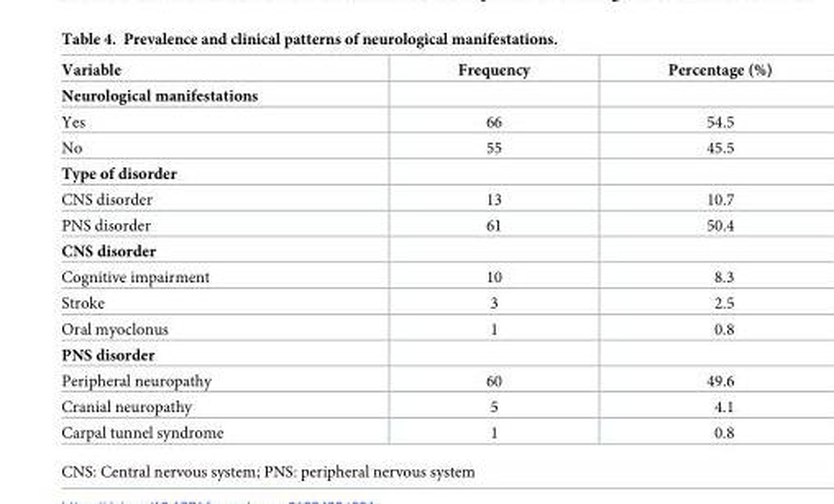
<table><thead><tr><td>Variable</td><td>Frequency</td><td>Percentage (%)</td></tr></thead><tbody><tr><td colspan="3">Neurological manifestations</td></tr><tr><td>Yes</td><td>66</td><td>54.5</td></tr><tr><td>No</td><td>55</td><td>45.5</td></tr><tr><td colspan="3">Type of disorder</td></tr><tr><td>CNS disorder</td><td>13</td><td>10.7</td></tr><tr><td>PNS disorder</td><td>61</td><td>50.4</td></tr><tr><td colspan="3">CNS disorder</td></tr><tr><td>Cognitive impairment</td><td>10</td><td>8.3</td></tr><tr><td>Stroke</td><td>3</td><td>2.5</td></tr><tr><td>Oral myoclonus</td><td>1</td><td>0.8</td></tr><tr><td colspan="3">PNS disorder</td></tr><tr><td>Peripheral neuropathy</td><td>60</td><td>49.6</td></tr><tr><td>Cranial neuropathy</td><td>5</td><td>4.1</td></tr><tr><td>Carpal tunnel syndrome</td><td>1</td><td>0.8</td></tr></tbody></table>